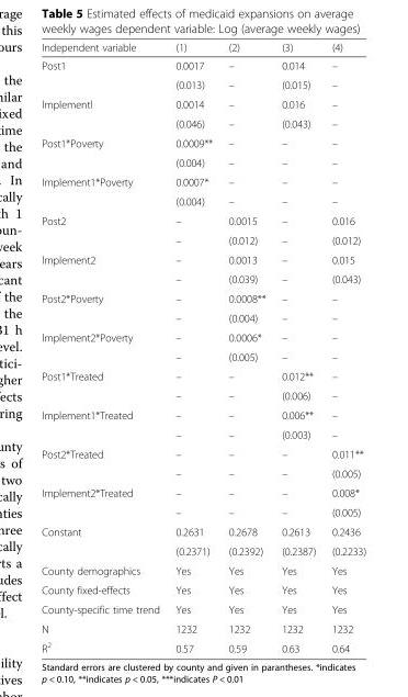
<table><thead><tr><td>Independent variable</td><td>(1)</td><td>(2)</td><td>(3)</td><td>(4)</td></tr></thead><tbody><tr><td rowspan="2">Post1</td><td>0.0017</td><td>–</td><td>0.014</td><td>–</td></tr><tr><td>(0.013)</td><td>–</td><td>(0.015)</td><td>–</td></tr><tr><td rowspan="2">lmplementl</td><td>0.0014</td><td>–</td><td>0.016</td><td>–</td></tr><tr><td>(0.046)</td><td>–</td><td>(0.043)</td><td>–</td></tr><tr><td rowspan="2">Post1*Poverty</td><td>0.0009**</td><td>–</td><td>–</td><td>–</td></tr><tr><td>(0.004)</td><td>–</td><td>–</td><td>–</td></tr><tr><td rowspan="2">Implement1*Poverty</td><td>0.0007*</td><td>–</td><td>–</td><td>–</td></tr><tr><td>(0.004)</td><td>–</td><td>–</td><td>–</td></tr><tr><td rowspan="2">Post2</td><td>–</td><td>0.0015</td><td>–</td><td>0.016</td></tr><tr><td>–</td><td>(0.012)</td><td>–</td><td>(0.012)</td></tr><tr><td rowspan="2">lmplement2</td><td>–</td><td>0.0013</td><td>–</td><td>0.015</td></tr><tr><td>–</td><td>(0.039)</td><td>–</td><td>(0.043)</td></tr><tr><td rowspan="2">Post2*Poverty</td><td>–</td><td>0.0008**</td><td>–</td><td>–</td></tr><tr><td>–</td><td>(0.004)</td><td>–</td><td>–</td></tr><tr><td rowspan="2">lmplement2*Poverty</td><td>–</td><td>0.0006*</td><td>–</td><td>–</td></tr><tr><td>–</td><td>(0.005)</td><td>–</td><td>–</td></tr><tr><td rowspan="2">Post1*Treated</td><td>–</td><td>–</td><td>0.012**</td><td>–</td></tr><tr><td>–</td><td>–</td><td>(0.006)</td><td>–</td></tr><tr><td rowspan="2">Implement1*Treated</td><td>–</td><td>–</td><td>0.006**</td><td>–</td></tr><tr><td>–</td><td>–</td><td>(0.003)</td><td>–</td></tr><tr><td rowspan="2">Post2*Treated</td><td>–</td><td>–</td><td>–</td><td>0.011**</td></tr><tr><td>–</td><td>–</td><td>–</td><td>(0.005)</td></tr><tr><td rowspan="2">Implement2*Treated</td><td>–</td><td>–</td><td>–</td><td>0.008*</td></tr><tr><td>–</td><td>–</td><td>–</td><td>(0.005)</td></tr><tr><td rowspan="2">Constant</td><td>0.2631</td><td>0.2678</td><td>0.2613</td><td>0.2436</td></tr><tr><td>(0.2371)</td><td>(0.2392)</td><td>(0.2387)</td><td>(0.2233)</td></tr><tr><td>County demographics</td><td>Yes</td><td>Yes</td><td>Yes</td><td>Yes</td></tr><tr><td>County fixed-effects</td><td>Yes</td><td>Yes</td><td>Yes</td><td>Yes</td></tr><tr><td>County-specific time trend</td><td>Yes</td><td>Yes</td><td>Yes</td><td>Yes</td></tr><tr><td>N</td><td>1232</td><td>1232</td><td>1232</td><td>1232</td></tr><tr><td>R<sup>2</sup></td><td>0.57</td><td>0.59</td><td>0.63</td><td>0.64</td></tr></tbody></table>